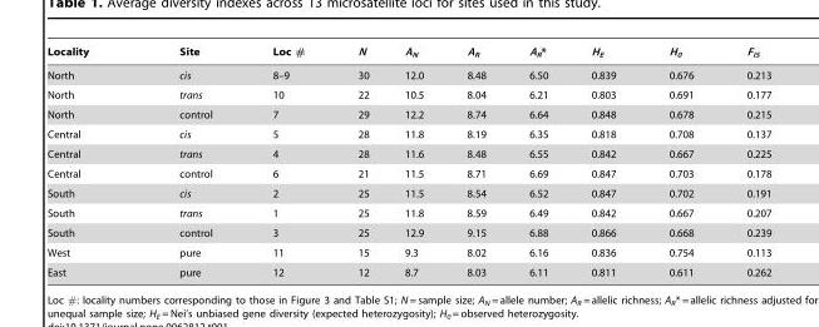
<table><thead><tr><td>Locality</td><td>Site</td><td>Loc #</td><td>N</td><td>A<sub>N</sub></td><td>A<sub>R</sub></td><td>A<sub>R</sub>*</td><td>H<sub>E</sub></td><td>H<sub>0</sub></td><td>F<sub>IS</sub></td></tr></thead><tbody><tr><td>North</td><td>cis</td><td>8–9</td><td>30</td><td>12.0</td><td>8.48</td><td>6.50</td><td>0.839</td><td>0.676</td><td>0.213</td></tr><tr><td>North</td><td>trans</td><td>10</td><td>22</td><td>10.5</td><td>8.04</td><td>6.21</td><td>0.803</td><td>0.691</td><td>0.177</td></tr><tr><td>North</td><td>control</td><td>7</td><td>29</td><td>12.2</td><td>8.74</td><td>6.64</td><td>0.848</td><td>0.678</td><td>0.215</td></tr><tr><td>Central</td><td>cis</td><td>5</td><td>28</td><td>11.8</td><td>8.19</td><td>6.35</td><td>0.818</td><td>0.708</td><td>0.137</td></tr><tr><td>Central</td><td>trans</td><td>4</td><td>28</td><td>11.6</td><td>8.48</td><td>6.55</td><td>0.842</td><td>0.667</td><td>0.225</td></tr><tr><td>Central</td><td>control</td><td>6</td><td>21</td><td>11.5</td><td>8.71</td><td>6.69</td><td>0.847</td><td>0.703</td><td>0.178</td></tr><tr><td>South</td><td>cis</td><td>2</td><td>25</td><td>11.5</td><td>8.54</td><td>6.52</td><td>0.847</td><td>0.702</td><td>0.191</td></tr><tr><td>South</td><td>trans</td><td>1</td><td>25</td><td>11.8</td><td>8.59</td><td>6.49</td><td>0.842</td><td>0.667</td><td>0.207</td></tr><tr><td>South</td><td>control</td><td>3</td><td>25</td><td>12.9</td><td>9.15</td><td>6.88</td><td>0.866</td><td>0.668</td><td>0.239</td></tr><tr><td>West</td><td>pure</td><td>11</td><td>15</td><td>9.3</td><td>8.02</td><td>6.16</td><td>0.836</td><td>0.754</td><td>0.113</td></tr><tr><td>East</td><td>pure</td><td>12</td><td>12</td><td>8.7</td><td>8.03</td><td>6.11</td><td>0.811</td><td>0.611</td><td>0.262</td></tr></tbody></table>